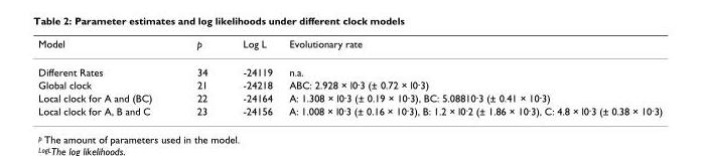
<table><thead><tr><td>Model</td><td>p</td><td>Log L</td><td>Evolutionary rate</td></tr></thead><tbody><tr><td>Different Rates</td><td>34</td><td>-24119</td><td>n.a.</td></tr><tr><td>Global clock</td><td>21</td><td>-24218</td><td>ABC: 2.928 × l0<sup>-</sup>3 (± 0.72 × l0<sup>-</sup>3)</td></tr><tr><td>Local clock for A and (BC)</td><td>22</td><td>-24164</td><td>A: 1.308 × l0<sup>-</sup>3 (± 0.19 × 10<sup>-</sup>3), BC: 5.08810<sup>-</sup>3 (± 0.41 × 10<sup>-</sup>3)</td></tr><tr><td>Local clock for A, B and C</td><td>23</td><td>-24156</td><td>A: 1.008 × l0<sup>-</sup>3 (± 0.16 × 10<sup>-</sup>3), B: 1.2 × l0<sup>-</sup>2 (± 1.86 × 10<sup>-</sup>3), C: 4.8 × l0<sup>-</sup>3 (± 0.38 × 10<sup>-</sup>3)</td></tr></tbody></table>